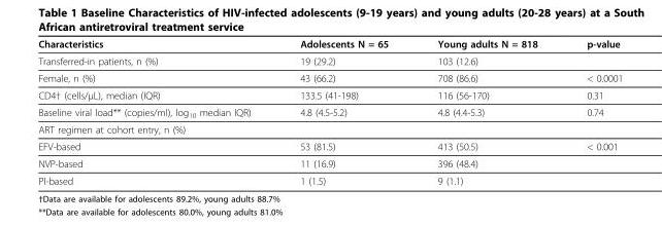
<table><thead><tr><td>Characteristics</td><td>Adolescents N = 65</td><td>Young adults N = 818</td><td>p-value</td></tr></thead><tbody><tr><td>Transferred-in patients, n (%)</td><td>19 (29.2)</td><td>103 (12.6)</td><td></td></tr><tr><td>Female, n (%)</td><td>43 (66.2)</td><td>708 (86.6)</td><td>&lt; 0.0001</td></tr><tr><td>CD4† (cells/μL), median (IQR)</td><td>133.5 (41-198)</td><td>116 (56-170)</td><td>0.31</td></tr><tr><td>Baseline viral load** (copies/ml), log<sub>10</sub> median IQR)</td><td>4.8 (4.5-5.2)</td><td>4.8 (4.4-5.3)</td><td>0.74</td></tr><tr><td colspan="4">ART regimen at cohort entry, n (%)</td></tr><tr><td>EFV-based</td><td>53 (81.5)</td><td>413 (50.5)</td><td>&lt; 0.001</td></tr><tr><td>NVP-based</td><td>11 (16.9)</td><td>396 (48.4)</td><td></td></tr><tr><td>PI-based</td><td>1 (1.5)</td><td>9 (1.1)</td><td></td></tr></tbody></table>